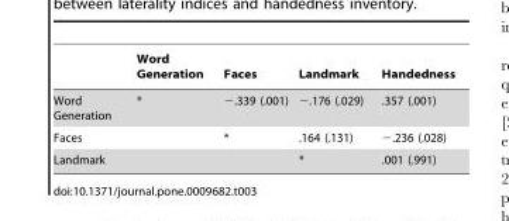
<table><thead><tr><td></td><td>Word Generation</td><td>Faces</td><td>Landmark</td><td>Handedness</td></tr></thead><tbody><tr><td>Word Generation</td><td>*</td><td>−.339 (.001)</td><td>−.176 (.029)</td><td>.357 (.001)</td></tr><tr><td>Faces</td><td></td><td>*</td><td>.164 (.131)</td><td>−.236 (.028)</td></tr><tr><td>Landmark</td><td></td><td></td><td>*</td><td>.001 (.991)</td></tr></tbody></table>